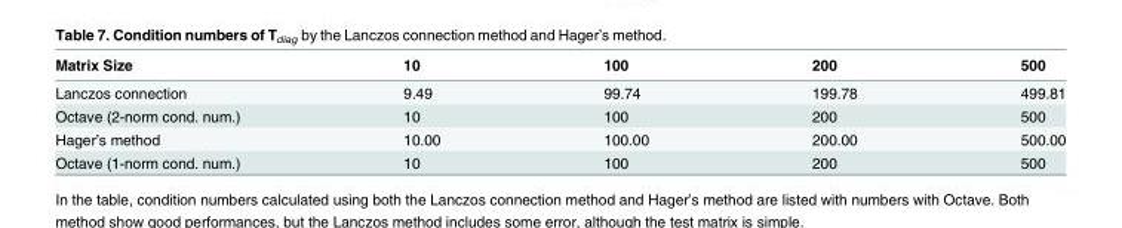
<table><thead><tr><td>Matrix Size</td><td>10</td><td>100</td><td>200</td><td>500</td></tr></thead><tbody><tr><td>Lanczos connection</td><td>9.49</td><td>99.74</td><td>199.78</td><td>499.81</td></tr><tr><td>Octave (2-norm cond. num.)</td><td>10</td><td>100</td><td>200</td><td>500</td></tr><tr><td>Hager’s method</td><td>10.00</td><td>100.00</td><td>200.00</td><td>500.00</td></tr><tr><td>Octave (1-norm cond. num.)</td><td>10</td><td>100</td><td>200</td><td>500</td></tr></tbody></table>